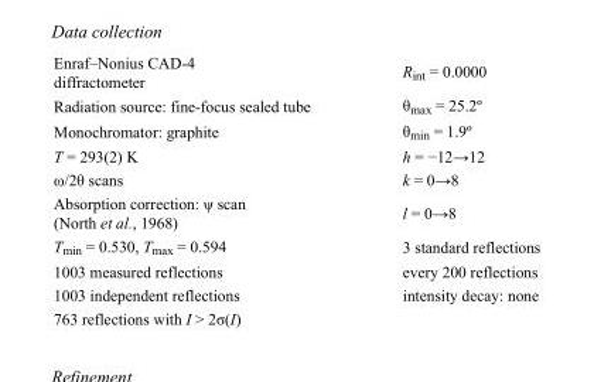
<table><tbody><tr><td>Enraf–Nonius CAD-4 diffractometer</td><td>R<sub>int</sub> = 0.0000</td></tr><tr><td>Radiation source: fine-focus sealed tube</td><td>θ<sub>max</sub> = 25.2º</td></tr><tr><td>Monochromator: graphite</td><td>θ<sub>min</sub> = 1.9º</td></tr><tr><td>T = 293(2) K</td><td>h = −12→12</td></tr><tr><td>ω/2θ scans</td><td>k = 0→8</td></tr><tr><td>Absorption correction: ψ scan (North et al., 1968)</td><td>l = 0→8</td></tr><tr><td>T<sub>min</sub> = 0.530, T<sub>max</sub> = 0.594</td><td>3 standard reflections</td></tr><tr><td>1003 measured reflections</td><td>every 200 reflections</td></tr><tr><td>1003 independent reflections</td><td>intensity decay: none</td></tr><tr><td>763 reflections with I &gt; 2σ(I)</td><td></td></tr></tbody></table>